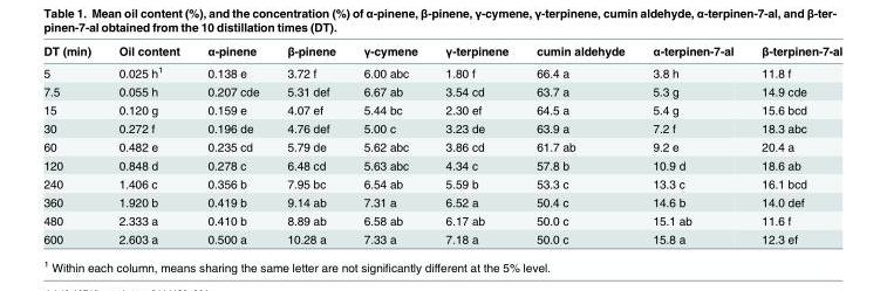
<table><thead><tr><td>DT (min)</td><td>Oil content</td><td>α-pinene</td><td>β-pinene</td><td>γ-cymene</td><td>γ-terpinene</td><td>cumin aldehyde</td><td>α-terpinen-7-al</td><td>β-terpinen-7-al</td></tr></thead><tbody><tr><td>5</td><td>0.025 h<sup>1</sup></td><td>0.138 e</td><td>3.72 f</td><td>6.00 abc</td><td>1.80 f</td><td>66.4 a</td><td>3.8 h</td><td>11.8 f</td></tr><tr><td>7.5</td><td>0.055 h</td><td>0.207 cde</td><td>5.31 def</td><td>6.67 ab</td><td>3.54 cd</td><td>63.7 a</td><td>5.3 g</td><td>14.9 cde</td></tr><tr><td>15</td><td>0.120 g</td><td>0.159 e</td><td>4.07 ef</td><td>5.44 bc</td><td>2.30 ef</td><td>64.5 a</td><td>5.4 g</td><td>15.6 bcd</td></tr><tr><td>30</td><td>0.272 f</td><td>0.196 de</td><td>4.76 def</td><td>5.00 c</td><td>3.23 de</td><td>63.9 a</td><td>7.2 f</td><td>18.3 abc</td></tr><tr><td>60</td><td>0.482 e</td><td>0.235 cd</td><td>5.79 de</td><td>5.62 abc</td><td>3.86 cd</td><td>61.7 ab</td><td>9.2 e</td><td>20.4 a</td></tr><tr><td>120</td><td>0.848 d</td><td>0.278 c</td><td>6.48 cd</td><td>5.63 abc</td><td>4.34 c</td><td>57.8 b</td><td>10.9 d</td><td>18.6 ab</td></tr><tr><td>240</td><td>1.406 c</td><td>0.356 b</td><td>7.95 bc</td><td>6.54 ab</td><td>5.59 b</td><td>53.3 c</td><td>13.3 c</td><td>16.1 bcd</td></tr><tr><td>360</td><td>1.920 b</td><td>0.419 b</td><td>9.14 ab</td><td>7.31 a</td><td>6.52 a</td><td>50.4 c</td><td>14.6 b</td><td>14.0 def</td></tr><tr><td>480</td><td>2.333 a</td><td>0.410 b</td><td>8.89 ab</td><td>6.58 ab</td><td>6.17 ab</td><td>50.0 c</td><td>15.1 ab</td><td>11.6 f</td></tr><tr><td>600</td><td>2.603 a</td><td>0.500 a</td><td>10.28 a</td><td>7.33 a</td><td>7.18 a</td><td>50.0 c</td><td>15.8 a</td><td>12.3 ef</td></tr></tbody></table>